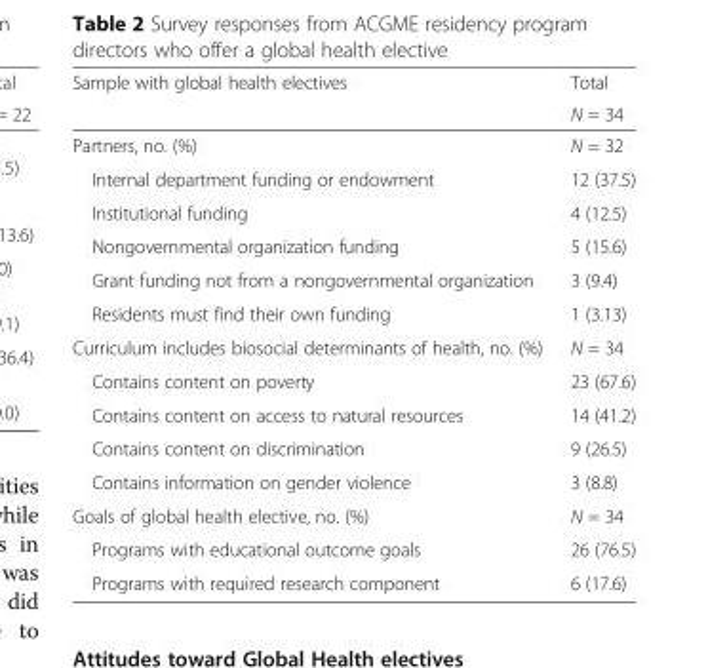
<table><thead><tr><td rowspan="2">Sample with global health electives</td><td rowspan="2">Total N = 34</td></tr><tr></tr></thead><tbody><tr><td>Partners, no. (%)</td><td>N = 32</td></tr><tr><td>Internal department funding or endowment</td><td>12 (37.5)</td></tr><tr><td>Institutional funding</td><td>4 (12.5)</td></tr><tr><td>Nongovernmental organization funding</td><td>5 (15.6)</td></tr><tr><td>Grant funding not from a nongovernmental organization</td><td>3 (9.4)</td></tr><tr><td>Residents must find their own funding</td><td>1 (3.13)</td></tr><tr><td>Curriculum includes biosocial determinants of health, no. (%)</td><td>N = 34</td></tr><tr><td>Contains content on poverty</td><td>23 (67.6)</td></tr><tr><td>Contains content on access to natural resources</td><td>14 (41.2)</td></tr><tr><td>Contains content on discrimination</td><td>9 (26.5)</td></tr><tr><td>Contains information on gender violence</td><td>3 (8.8)</td></tr><tr><td>Goals of global health elective, no. (%)</td><td>N = 34</td></tr><tr><td>Programs with educational outcome goals</td><td>26 (76.5)</td></tr><tr><td>Programs with required research component</td><td>6 (17.6)</td></tr></tbody></table>